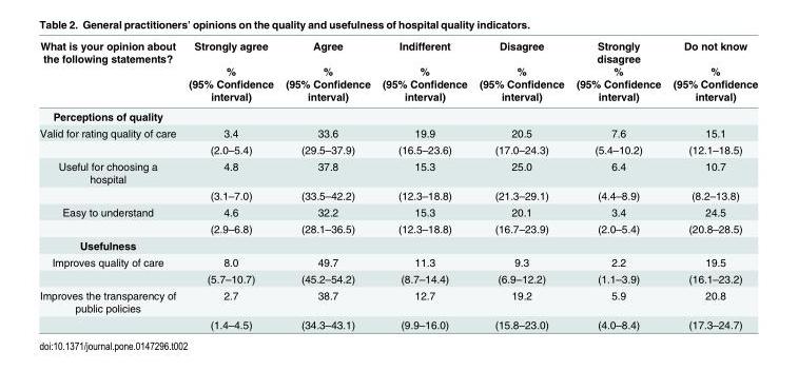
<table><thead><tr><td rowspan="3">What is your opinion about the following statements?</td><td rowspan="3">Strongly agree % (95% Confidence interval)</td><td rowspan="3">Agree % (95% Confidence interval)</td><td rowspan="3">Indifferent % (95% Confidence interval)</td><td rowspan="3">Disagree % (95% Confidence interval)</td><td rowspan="3">Strongly disagree % (95% Confidence interval)</td><td rowspan="3">Do not know % (95% Confidence interval)</td></tr><tr></tr><tr></tr></thead><tbody><tr><td colspan="7">Perceptions of quality</td></tr><tr><td rowspan="2">Valid for rating quality of care</td><td>3.4</td><td>33.6</td><td>19.9</td><td>20.5</td><td>7.6</td><td>15.1</td></tr><tr><td>(2.0–5.4)</td><td>(29.5–37.9)</td><td>(16.5–23.6)</td><td>(17.0–24.3)</td><td>(5.4–10.2)</td><td>(12.1–18.5)</td></tr><tr><td rowspan="2">Useful for choosing a hospital</td><td>4.8</td><td>37.8</td><td>15.3</td><td>25.0</td><td>6.4</td><td>10.7</td></tr><tr><td>(3.1–7.0)</td><td>(33.5–42.2)</td><td>(12.3–18.8)</td><td>(21.3–29.1)</td><td>(4.4–8.9)</td><td>(8.2–13.8)</td></tr><tr><td rowspan="2">Easy to understand</td><td>4.6</td><td>32.2</td><td>15.3</td><td>20.1</td><td>3.4</td><td>24.5</td></tr><tr><td>(2.9–6.8)</td><td>(28.1–36.5)</td><td>(12.3–18.8)</td><td>(16.7–23.9)</td><td>(2.0–5.4)</td><td>(20.8–28.5)</td></tr><tr><td colspan="7">Usefulness</td></tr><tr><td rowspan="2">Improves quality of care</td><td>8.0</td><td>49.7</td><td>11.3</td><td>9.3</td><td>2.2</td><td>19.5</td></tr><tr><td>(5.7–10.7)</td><td>(45.2–54.2)</td><td>(8.7–14.4)</td><td>(6.9–12.2)</td><td>(1.1–3.9)</td><td>(16.1–23.2)</td></tr><tr><td rowspan="2">Improves the transparency of public policies</td><td>2.7</td><td>38.7</td><td>12.7</td><td>19.2</td><td>5.9</td><td>20.8</td></tr><tr><td>(1.4–4.5)</td><td>(34.3–43.1)</td><td>(9.9–16.0)</td><td>(15.8–23.0)</td><td>(4.0–8.4)</td><td>(17.3–24.7)</td></tr></tbody></table>